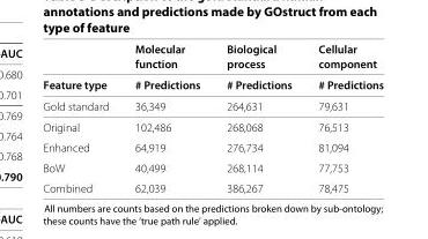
<table><thead><tr><td rowspan="2"></td><td rowspan="2">Molecular function</td><td rowspan="2">Biological process</td><td rowspan="2">Cellular component</td></tr><tr></tr></thead><tbody><tr><td>Feature type</td><td># Predictions</td><td># Predictions</td><td># Predictions</td></tr><tr><td>Gold standard</td><td>36,349</td><td>264,631</td><td>79,631</td></tr><tr><td>Original</td><td>102,486</td><td>268,068</td><td>76,513</td></tr><tr><td>Enhanced</td><td>64,919</td><td>276,734</td><td>81,094</td></tr><tr><td>BoW</td><td>40,499</td><td>268,114</td><td>77,753</td></tr><tr><td>Combined</td><td>62,039</td><td>386,267</td><td>78,475</td></tr></tbody></table>